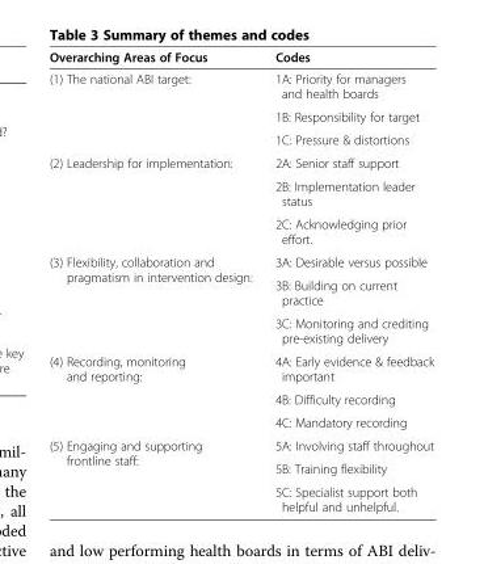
<table><thead><tr><td>Overarching Areas of Focus</td><td>Codes</td></tr></thead><tbody><tr><td rowspan="3">(1) The national ABI target:</td><td>1A: Priority for managers and health boards</td></tr><tr><td>1B: Responsibility for target</td></tr><tr><td>1C: Pressure &amp; distortions</td></tr><tr><td rowspan="3">(2) Leadership for implementation:</td><td>2A: Senior staff support</td></tr><tr><td>2B: Implementation leader status</td></tr><tr><td>2C: Acknowledging prior effort.</td></tr><tr><td rowspan="3">(3) Flexibility, collaboration and pragmatism in intervention design:</td><td>3A: Desirable versus possible</td></tr><tr><td>3B: Building on current practice</td></tr><tr><td>3C: Monitoring and crediting pre-existing delivery</td></tr><tr><td rowspan="3">(4) Recording, monitoring and reporting:</td><td>4A: Early evidence &amp; feedback important</td></tr><tr><td>4B: Difficulty recording</td></tr><tr><td>4C: Mandatory recording</td></tr><tr><td rowspan="3">(5) Engaging and supporting frontline staff:</td><td>5A: Involving staff throughout</td></tr><tr><td>5B: Training flexibility</td></tr><tr><td>5C: Specialist support both helpful and unhelpful.</td></tr></tbody></table>